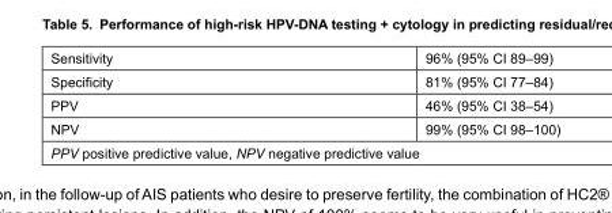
<table><tbody><tr><td>Sensitivity</td><td>96% (95% CI 89–99)</td></tr><tr><td>Specificity</td><td>81% (95% CI 77–84)</td></tr><tr><td>PPV</td><td>46% (95% CI 38–54)</td></tr><tr><td>NPV</td><td>99% (95% CI 98–100)</td></tr><tr><td colspan="2">PPV positive predictive value, NPV negative predictive value</td></tr></tbody></table>